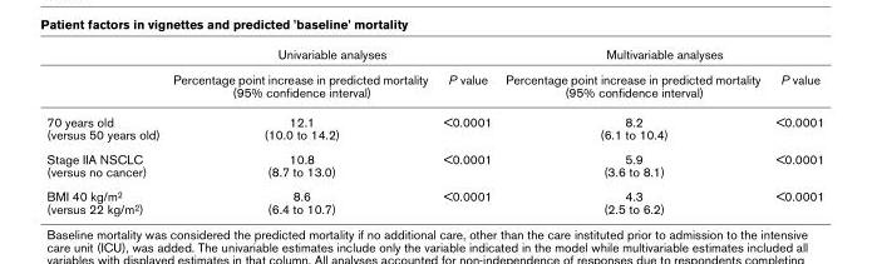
<table><thead><tr><td rowspan="2"></td><td colspan="2">Univariable analyses</td><td colspan="2">Multivariable analyses</td></tr><tr><td>Percentage point increase in predicted mortality (95% confidence interval)</td><td>P value</td><td>Percentage point increase in predicted mortality (95% confidence interval)</td><td>P value</td></tr></thead><tbody><tr><td>70 years old (versus 50 years old)</td><td>12.1 (10.0 to 14.2)</td><td>&lt;0.0001</td><td>8.2 (6.1 to 10.4)</td><td>&lt;0.0001</td></tr><tr><td>Stage IIA NSCLC (versus no cancer)</td><td>10.8 (8.7 to 13.0)</td><td>&lt;0.0001</td><td>5.9 (3.6 to 8.1)</td><td>&lt;0.0001</td></tr><tr><td>BMI 40 kg/m<sup>2</sup> (versus 22 kg/m<sup>2</sup>)</td><td>8.6 (6.4 to 10.7)</td><td>&lt;0.0001</td><td>4.3 (2.5 to 6.2)</td><td>&lt;0.0001</td></tr></tbody></table>